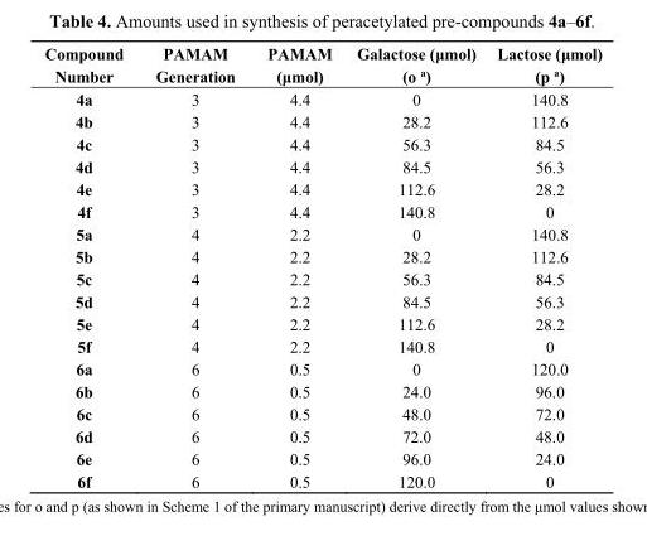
<table><thead><tr><td>Compound Number</td><td>PAMAM Generation</td><td>PAMAM (μmol)</td><td>Galactose (μmol) (o <sup>a</sup>)</td><td>Lactose (μmol) (p <sup>a</sup>)</td></tr></thead><tbody><tr><td>4a</td><td>3</td><td>4.4</td><td>0</td><td>140.8</td></tr><tr><td>4b</td><td>3</td><td>4.4</td><td>28.2</td><td>112.6</td></tr><tr><td>4c</td><td>3</td><td>4.4</td><td>56.3</td><td>84.5</td></tr><tr><td>4d</td><td>3</td><td>4.4</td><td>84.5</td><td>56.3</td></tr><tr><td>4e</td><td>3</td><td>4.4</td><td>112.6</td><td>28.2</td></tr><tr><td>4f</td><td>3</td><td>4.4</td><td>140.8</td><td>0</td></tr><tr><td>5a</td><td>4</td><td>2.2</td><td>0</td><td>140.8</td></tr><tr><td>5b</td><td>4</td><td>2.2</td><td>28.2</td><td>112.6</td></tr><tr><td>5c</td><td>4</td><td>2.2</td><td>56.3</td><td>84.5</td></tr><tr><td>5d</td><td>4</td><td>2.2</td><td>84.5</td><td>56.3</td></tr><tr><td>5e</td><td>4</td><td>2.2</td><td>112.6</td><td>28.2</td></tr><tr><td>5f</td><td>4</td><td>2.2</td><td>140.8</td><td>0</td></tr><tr><td>6a</td><td>6</td><td>0.5</td><td>0</td><td>120.0</td></tr><tr><td>6b</td><td>6</td><td>0.5</td><td>24.0</td><td>96.0</td></tr><tr><td>6c</td><td>6</td><td>0.5</td><td>48.0</td><td>72.0</td></tr><tr><td>6d</td><td>6</td><td>0.5</td><td>72.0</td><td>48.0</td></tr><tr><td>6e</td><td>6</td><td>0.5</td><td>96.0</td><td>24.0</td></tr><tr><td>6f</td><td>6</td><td>0.5</td><td>120.0</td><td>0</td></tr></tbody></table>